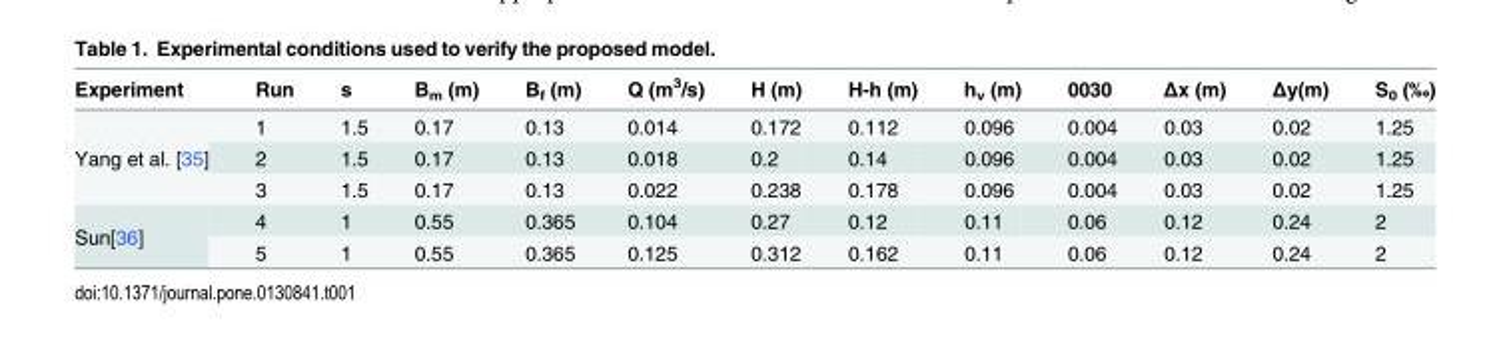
<table><thead><tr><td>Experiment</td><td>Run</td><td>s</td><td>B<sub>m</sub> (m)</td><td>B<sub>f</sub> (m)</td><td>Q (m<sup>3</sup>/s)</td><td>H (m)</td><td>H-h (m)</td><td>h<sub>v</sub> (m)</td><td>0030</td><td>Δx (m)</td><td>Δy(m)</td><td>S<sub>0</sub> (‰)</td></tr></thead><tbody><tr><td rowspan="3">Yang et al. [35]</td><td>1</td><td>1.5</td><td>0.17</td><td>0.13</td><td>0.014</td><td>0.172</td><td>0.112</td><td>0.096</td><td>0.004</td><td>0.03</td><td>0.02</td><td>1.25</td></tr><tr><td>2</td><td>1.5</td><td>0.17</td><td>0.13</td><td>0.018</td><td>0.2</td><td>0.14</td><td>0.096</td><td>0.004</td><td>0.03</td><td>0.02</td><td>1.25</td></tr><tr><td>3</td><td>1.5</td><td>0.17</td><td>0.13</td><td>0.022</td><td>0.238</td><td>0.178</td><td>0.096</td><td>0.004</td><td>0.03</td><td>0.02</td><td>1.25</td></tr><tr><td rowspan="2">Sun[36]</td><td>4</td><td>1</td><td>0.55</td><td>0.365</td><td>0.104</td><td>0.27</td><td>0.12</td><td>0.11</td><td>0.06</td><td>0.12</td><td>0.24</td><td>2</td></tr><tr><td>5</td><td>1</td><td>0.55</td><td>0.365</td><td>0.125</td><td>0.312</td><td>0.162</td><td>0.11</td><td>0.06</td><td>0.12</td><td>0.24</td><td>2</td></tr></tbody></table>